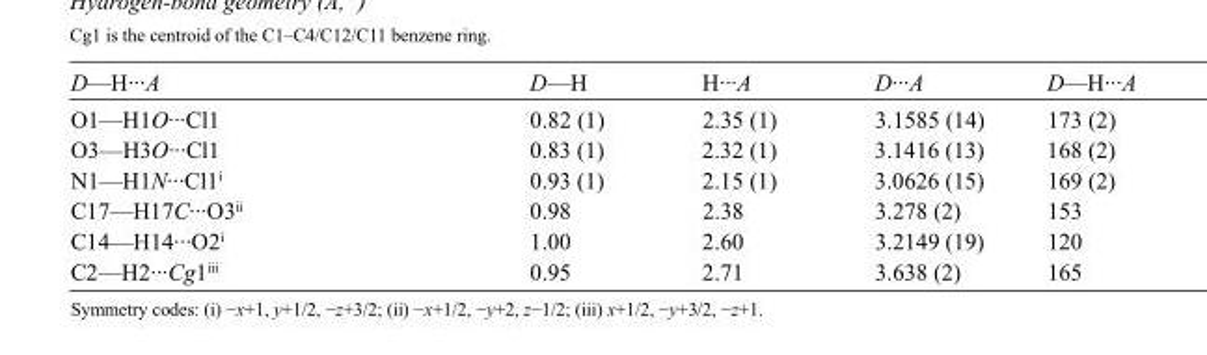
<table><tbody><tr><td>D—H···A</td><td>D—H</td><td>H···A</td><td>D···A</td><td>D—H···A</td></tr><tr><td>O1—H1O···Cl1</td><td>0.82 (1)</td><td>2.35 (1)</td><td>3.1585 (14)</td><td>173 (2)</td></tr><tr><td>O3—H3O···Cl1</td><td>0.83 (1)</td><td>2.32 (1)</td><td>3.1416 (13)</td><td>168 (2)</td></tr><tr><td>N1—H1N···Cl1<sup>i</sup></td><td>0.93 (1)</td><td>2.15 (1)</td><td>3.0626 (15)</td><td>169 (2)</td></tr><tr><td>C17—H17C···O3<sup>ii</sup></td><td>0.98</td><td>2.38</td><td>3.278 (2)</td><td>153</td></tr><tr><td>C14—H14···O2<sup>i</sup></td><td>1.00</td><td>2.60</td><td>3.2149 (19)</td><td>120</td></tr><tr><td>C2—H2···Cg1<sup>iii</sup></td><td>0.95</td><td>2.71</td><td>3.638 (2)</td><td>165</td></tr></tbody></table>